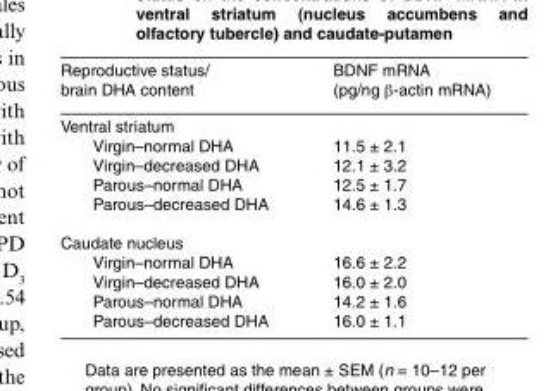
<table><thead><tr><td>Reproductive status/ brain DHA content</td><td>BDNF mRNA (pg/ng β-actin mRNA)</td></tr></thead><tbody><tr><td colspan="2">Ventral striatum</td></tr><tr><td>Virgin–normal DHA</td><td>11.5 ± 2.1</td></tr><tr><td>Virgin–decreased DHA</td><td>12.1 ± 3.2</td></tr><tr><td>Parous–normal DHA</td><td>12.5 ± 1.7</td></tr><tr><td>Parous–decreased DHA</td><td>14.6 ± 1.3</td></tr><tr><td colspan="2">Caudate nucleus</td></tr><tr><td>Virgin–normal DHA</td><td>16.6 ± 2.2</td></tr><tr><td>Virgin–decreased DHA</td><td>16.0 ± 2.0</td></tr><tr><td>Parous–normal DHA</td><td>14.2 ± 1.6</td></tr><tr><td>Parous–decreased DHA</td><td>16.0 ± 1.1</td></tr></tbody></table>